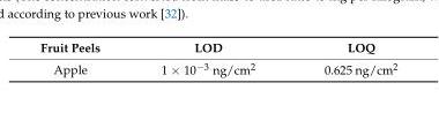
<table><thead><tr><td>Fruit Peels</td><td>LOD</td><td>LOQ</td></tr></thead><tbody><tr><td>Apple</td><td>1 × 10<sup>−3</sup> ng/cm<sup>2</sup></td><td>0.625 ng/cm<sup>2</sup></td></tr></tbody></table>